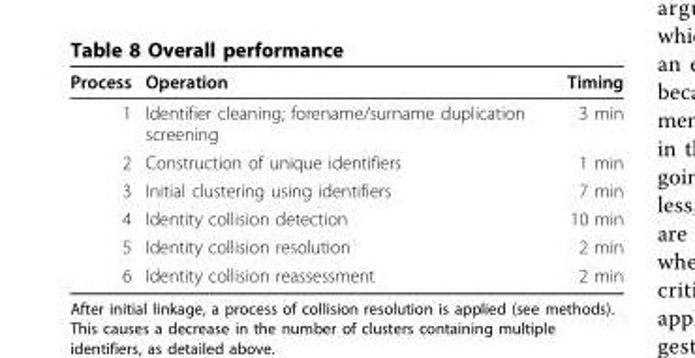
<table><thead><tr><td>Process</td><td>Operation</td><td>Timing</td></tr></thead><tbody><tr><td>1</td><td>Identifier cleaning; forename/surname duplication screening</td><td>3 min</td></tr><tr><td>2</td><td>Construction of unique identifiers</td><td>1 min</td></tr><tr><td>3</td><td>Initial clustering using identifiers</td><td>7 min</td></tr><tr><td>4</td><td>Identity collision detection</td><td>10 min</td></tr><tr><td>5</td><td>Identity collision resolution</td><td>2 min</td></tr><tr><td>6</td><td>Identity collision reassessment</td><td>2 min</td></tr></tbody></table>